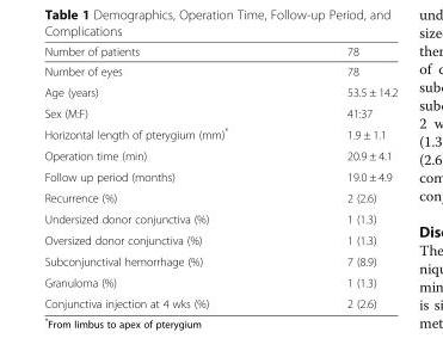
<table><thead><tr><td>Number of patients</td><td>78</td></tr></thead><tbody><tr><td>Number of eyes</td><td>78</td></tr><tr><td>Age (years)</td><td>53.5 ± 14.2</td></tr><tr><td>Sex (M:F)</td><td>41:37</td></tr><tr><td>Horizontal length of pterygium (mm)*</td><td>1.9 ± 1.1</td></tr><tr><td>Operation time (min)</td><td>20.9 ± 4.1</td></tr><tr><td>Follow up period (months)</td><td>19.0 ± 4.9</td></tr><tr><td>Recurrence (%)</td><td>2 (2.6)</td></tr><tr><td>Undersized donor conjunctiva (%)</td><td>1 (1.3)</td></tr><tr><td>Oversized donor conjunctiva (%)</td><td>1 (1.3)</td></tr><tr><td>Subconjunctival hemorrhage (%)</td><td>7 (8.9)</td></tr><tr><td>Granuloma (%)</td><td>1 (1.3)</td></tr><tr><td>Conjunctiva injection at 4 wks (%)</td><td>2 (2.6)</td></tr></tbody></table>